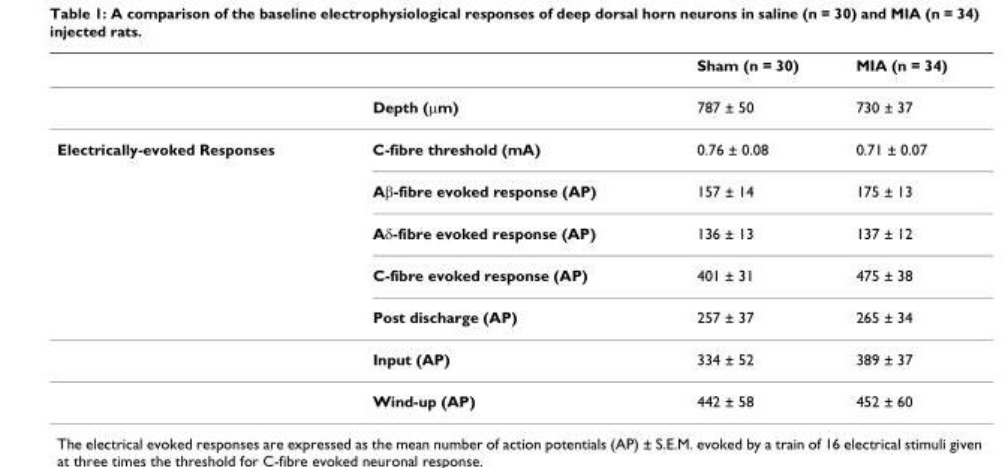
<table><thead><tr><td></td><td></td><td>Sham (n = 30)</td><td>MIA (n = 34)</td></tr></thead><tbody><tr><td></td><td>Depth (μm)</td><td>787 ± 50</td><td>730 ± 37</td></tr><tr><td rowspan="7">Electrically-evoked Responses</td><td>C-fibre threshold (mA)</td><td>0.76 ± 0.08</td><td>0.71 ± 0.07</td></tr><tr><td>Aβ-fibre evoked response (AP)</td><td>157 ± 14</td><td>175 ± 13</td></tr><tr><td>Aδ-fibre evoked response (AP)</td><td>136 ± 13</td><td>137 ± 12</td></tr><tr><td>C-fibre evoked response (AP)</td><td>401 ± 31</td><td>475 ± 38</td></tr><tr><td>Post discharge (AP)</td><td>257 ± 37</td><td>265 ± 34</td></tr><tr><td>Input (AP)</td><td>334 ± 52</td><td>389 ± 37</td></tr><tr><td>Wind-up (AP)</td><td>442 ± 58</td><td>452 ± 60</td></tr></tbody></table>